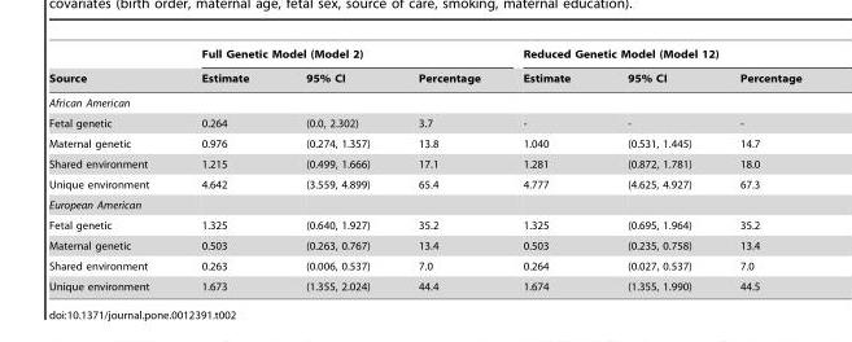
<table><thead><tr><td rowspan="2">Source</td><td colspan="3">Full Genetic Model (Model 2)</td><td colspan="3">Reduced Genetic Model (Model 12)</td></tr><tr><td>Estimate</td><td>95% CI</td><td>Percentage</td><td>Estimate</td><td>95% CI</td><td>Percentage</td></tr></thead><tbody><tr><td colspan="7">African American</td></tr><tr><td>Fetal genetic</td><td>0.264</td><td>(0.0, 2.302)</td><td>3.7</td><td>-</td><td>-</td><td>-</td></tr><tr><td>Maternal genetic</td><td>0.976</td><td>(0.274, 1.357)</td><td>13.8</td><td>1.040</td><td>(0.531, 1.445)</td><td>14.7</td></tr><tr><td>Shared environment</td><td>1.215</td><td>(0.499, 1.666)</td><td>17.1</td><td>1.281</td><td>(0.872, 1.781)</td><td>18.0</td></tr><tr><td>Unique environment</td><td>4.642</td><td>(3.559, 4.899)</td><td>65.4</td><td>4.777</td><td>(4.625, 4.927)</td><td>67.3</td></tr><tr><td colspan="7">European American</td></tr><tr><td>Fetal genetic</td><td>1.325</td><td>(0.640, 1.927)</td><td>35.2</td><td>1.325</td><td>(0.695, 1.964)</td><td>35.2</td></tr><tr><td>Maternal genetic</td><td>0.503</td><td>(0.263, 0.767)</td><td>13.4</td><td>0.503</td><td>(0.235, 0.758)</td><td>13.4</td></tr><tr><td>Shared environment</td><td>0.263</td><td>(0.006, 0.537)</td><td>7.0</td><td>0.264</td><td>(0.027, 0.537)</td><td>7.0</td></tr><tr><td>Unique environment</td><td>1.673</td><td>(1.355, 2.024)</td><td>44.4</td><td>1.674</td><td>(1.355, 1.990)</td><td>44.5</td></tr></tbody></table>